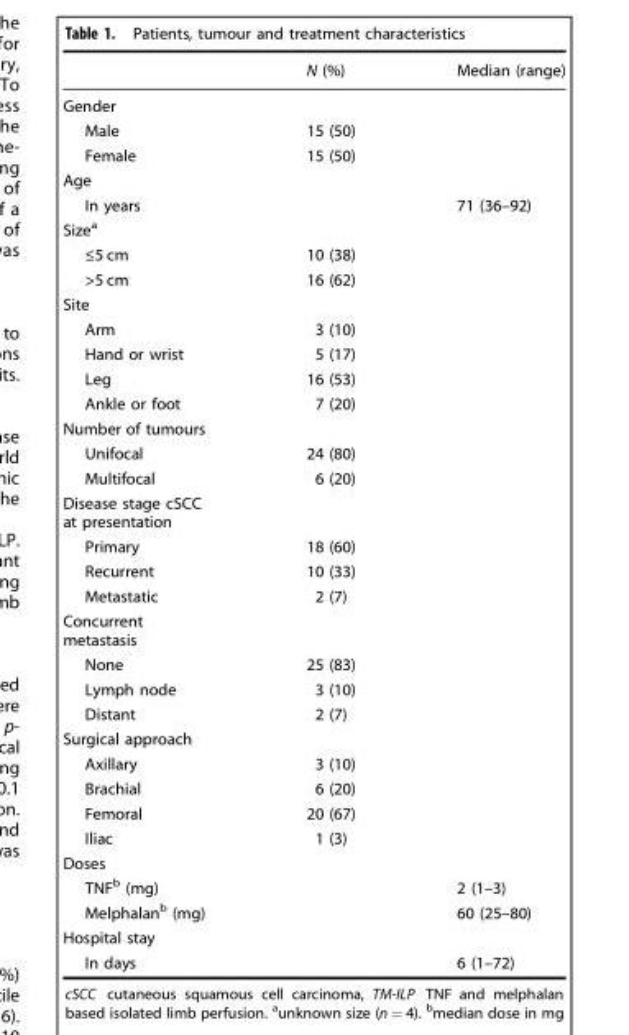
<table><thead><tr><td></td><td>N (%)</td><td>Median (range)</td></tr></thead><tbody><tr><td colspan="3">Gender</td></tr><tr><td>Male</td><td>15 (50)</td><td></td></tr><tr><td>Female</td><td>15 (50)</td><td></td></tr><tr><td colspan="3">Age</td></tr><tr><td>In years</td><td></td><td>71 (36–92)</td></tr><tr><td colspan="3">Size<sup>a</sup></td></tr><tr><td>≤5 cm</td><td>10 (38)</td><td></td></tr><tr><td>&gt;5 cm</td><td>16 (62)</td><td></td></tr><tr><td colspan="3">Site</td></tr><tr><td>Arm</td><td>3 (10)</td><td></td></tr><tr><td>Hand or wrist</td><td>5 (17)</td><td></td></tr><tr><td>Leg</td><td>16 (53)</td><td></td></tr><tr><td>Ankle or foot</td><td>7 (20)</td><td></td></tr><tr><td colspan="3">Number of tumours</td></tr><tr><td>Unifocal</td><td>24 (80)</td><td></td></tr><tr><td>Multifocal</td><td>6 (20)</td><td></td></tr><tr><td colspan="3">Disease stage cSCC at presentation</td></tr><tr><td>Primary</td><td>18 (60)</td><td></td></tr><tr><td>Recurrent</td><td>10 (33)</td><td></td></tr><tr><td>Metastatic</td><td>2 (7)</td><td></td></tr><tr><td colspan="3">Concurrent metastasis</td></tr><tr><td>None</td><td>25 (83)</td><td></td></tr><tr><td>Lymph node</td><td>3 (10)</td><td></td></tr><tr><td>Distant</td><td>2 (7)</td><td></td></tr><tr><td colspan="3">Surgical approach</td></tr><tr><td>Axillary</td><td>3 (10)</td><td></td></tr><tr><td>Brachial</td><td>6 (20)</td><td></td></tr><tr><td>Femoral</td><td>20 (67)</td><td></td></tr><tr><td>Iliac</td><td>1 (3)</td><td></td></tr><tr><td colspan="3">Doses</td></tr><tr><td>TNF<sup>b</sup> (mg)</td><td></td><td>2 (1–3)</td></tr><tr><td>Melphalan<sup>b</sup> (mg)</td><td></td><td>60 (25–80)</td></tr><tr><td colspan="3">Hospital stay</td></tr><tr><td>In days</td><td></td><td>6 (1–72)</td></tr></tbody></table>